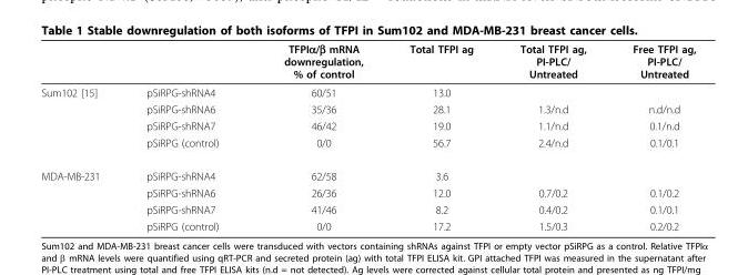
<table><thead><tr><td></td><td></td><td>TFPIα/β mRNA downregulation, % of control</td><td>Total TFPI ag</td><td>Total TFPI ag, PI-PLC/ Untreated</td><td>Free TFPI ag, PI-PLC/ Untreated</td></tr></thead><tbody><tr><td rowspan="4">Sum102 [15]</td><td>pSiRPG-shRNA4</td><td>60/51</td><td>13.0</td><td></td><td></td></tr><tr><td>pSiRPG-shRNA6</td><td>35/36</td><td>28.1</td><td>1.3/n.d</td><td>n.d/n.d</td></tr><tr><td>pSiRPG-shRNA7</td><td>46/42</td><td>19.0</td><td>1.1/n.d</td><td>0.1/n.d</td></tr><tr><td>pSiRPG (control)</td><td>0/0</td><td>56.7</td><td>2.4/n.d</td><td>0.1/0.1</td></tr><tr><td rowspan="4">MDA-MB-231</td><td>pSiRPG-shRNA4</td><td>62/58</td><td>3.6</td><td></td><td></td></tr><tr><td>pSiRPG-shRNA6</td><td>26/36</td><td>12.0</td><td>0.7/0.2</td><td>0.1/0.2</td></tr><tr><td>pSiRPG-shRNA7</td><td>41/46</td><td>8.2</td><td>0.4/0.2</td><td>0.1/0.1</td></tr><tr><td>pSiRPG (control)</td><td>0/0</td><td>17.2</td><td>1.5/0.3</td><td>0.2/0.2</td></tr></tbody></table>